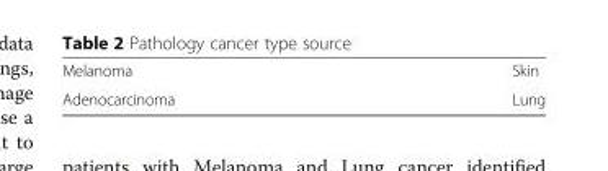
<table><tbody><tr><td>Melanoma</td><td>Skin</td></tr><tr><td>Adenocarcinoma</td><td>Lung</td></tr></tbody></table>